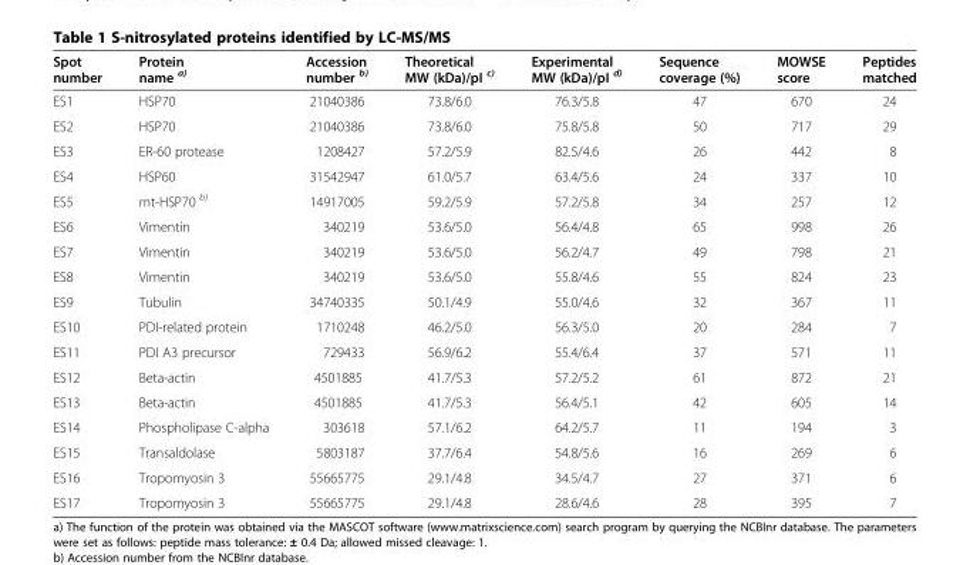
<table><thead><tr><td>Spot number</td><td>Protein name <sup>a)</sup></td><td>Accession number <sup>b)</sup></td><td>Theoretical MW (kDa)/pI <sup>c)</sup></td><td>Experimental MW (kDa)/pI <sup>d)</sup></td><td>Sequence coverage (%)</td><td>MOWSE score</td><td>Peptides matched</td></tr></thead><tbody><tr><td>ES1</td><td>HSP70</td><td>21040386</td><td>73.8/6.0</td><td>76.3/5.8</td><td>47</td><td>670</td><td>24</td></tr><tr><td>ES2</td><td>HSP70</td><td>21040386</td><td>73.8/6.0</td><td>75.8/5.8</td><td>50</td><td>717</td><td>29</td></tr><tr><td>ES3</td><td>ER-60 protease</td><td>1208427</td><td>57.2/5.9</td><td>82.5/4.6</td><td>26</td><td>442</td><td>8</td></tr><tr><td>ES4</td><td>HSP60</td><td>31542947</td><td>61.0/5.7</td><td>63.4/5.6</td><td>24</td><td>337</td><td>10</td></tr><tr><td>ES5</td><td>mt-HSP70 <sup>b)</sup></td><td>14917005</td><td>59.2/5.9</td><td>57.2/5.8</td><td>34</td><td>257</td><td>12</td></tr><tr><td>ES6</td><td>Vimentin</td><td>340219</td><td>53.6/5.0</td><td>56.4/4.8</td><td>65</td><td>998</td><td>26</td></tr><tr><td>ES7</td><td>Vimentin</td><td>340219</td><td>53.6/5.0</td><td>56.2/4.7</td><td>49</td><td>798</td><td>21</td></tr><tr><td>ES8</td><td>Vimentin</td><td>340219</td><td>53.6/5.0</td><td>55.8/4.6</td><td>55</td><td>824</td><td>23</td></tr><tr><td>ES9</td><td>Tubulin</td><td>34740335</td><td>50.1/4.9</td><td>55.0/4.6</td><td>32</td><td>367</td><td>11</td></tr><tr><td>ES10</td><td>PDI-related protein</td><td>1710248</td><td>46.2/5.0</td><td>56.3/5.0</td><td>20</td><td>284</td><td>7</td></tr><tr><td>ES11</td><td>PDI A3 precursor</td><td>729433</td><td>56.9/6.2</td><td>55.4/6.4</td><td>37</td><td>571</td><td>11</td></tr><tr><td>ES12</td><td>Beta-actin</td><td>4501885</td><td>41.7/5.3</td><td>57.2/5.2</td><td>61</td><td>872</td><td>21</td></tr><tr><td>ES13</td><td>Beta-actin</td><td>4501885</td><td>41.7/5.3</td><td>56.4/5.1</td><td>42</td><td>605</td><td>14</td></tr><tr><td>ES14</td><td>Phospholipase C-alpha</td><td>303618</td><td>57.1/6.2</td><td>64.2/5.7</td><td>11</td><td>194</td><td>3</td></tr><tr><td>ES15</td><td>Transaldolase</td><td>5803187</td><td>37.7/6.4</td><td>54.8/5.6</td><td>16</td><td>269</td><td>6</td></tr><tr><td>ES16</td><td>Tropomyosin 3</td><td>55665775</td><td>29.1/4.8</td><td>34.5/4.7</td><td>27</td><td>371</td><td>6</td></tr><tr><td>ES17</td><td>Tropomyosin 3</td><td>55665775</td><td>29.1/4.8</td><td>28.6/4.6</td><td>28</td><td>395</td><td>7</td></tr></tbody></table>